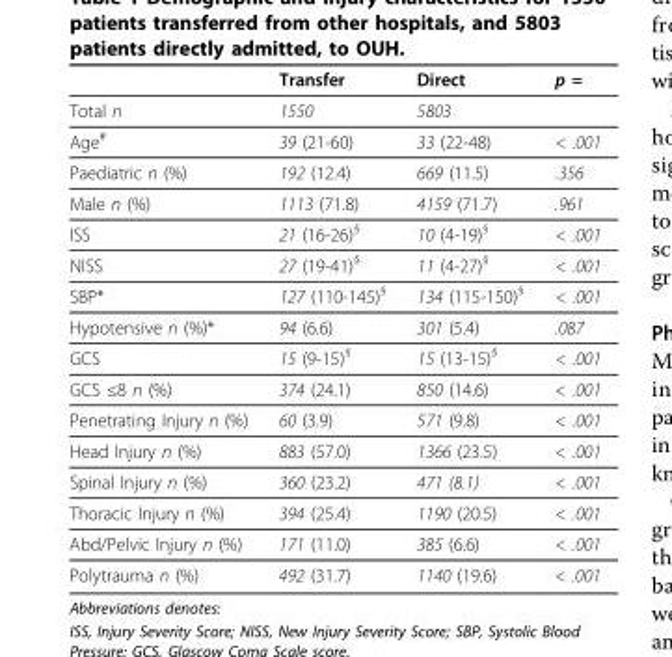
<table><thead><tr><td></td><td>Transfer</td><td>Direct</td><td>p =</td></tr></thead><tbody><tr><td>Total n</td><td>1550</td><td>5803</td><td></td></tr><tr><td>Age<sup>#</sup></td><td>39 (21-60)</td><td>33 (22-48)</td><td>&lt; .001</td></tr><tr><td>Paediatric n (%)</td><td>192 (12.4)</td><td>669 (11.5)</td><td>.356</td></tr><tr><td>Male n (%)</td><td>1113 (71.8)</td><td>4159 (71.7)</td><td>.961</td></tr><tr><td>ISS</td><td>21 (16-26)<sup>§</sup></td><td>10 (4-19)<sup>§</sup></td><td>&lt; .001</td></tr><tr><td>NISS</td><td>27 (19-41)<sup>§</sup></td><td>11 (4-27)<sup>§</sup></td><td>&lt; .001</td></tr><tr><td>SBP*</td><td>127 (110-145)<sup>§</sup></td><td>134 (115-150)<sup>§</sup></td><td>&lt; .001</td></tr><tr><td>Hypotensive n (%)*</td><td>94 (6.6)</td><td>301 (5.4)</td><td>.087</td></tr><tr><td>GCS</td><td>15 (9-15)<sup>§</sup></td><td>15 (13-15)<sup>§</sup></td><td>&lt; .001</td></tr><tr><td>GCS ≤8 n (%)</td><td>374 (24.1)</td><td>850 (14.6)</td><td>&lt; .001</td></tr><tr><td>Penetrating Injury n (%)</td><td>60 (3.9)</td><td>571 (9.8)</td><td>&lt; .001</td></tr><tr><td>Head Injury n (%)</td><td>883 (57.0)</td><td>1366 (23.5)</td><td>&lt; .001</td></tr><tr><td>Spinal Injury n (%)</td><td>360 (23.2)</td><td>471 (8.1)</td><td>&lt; .001</td></tr><tr><td>Thoracic Injury n (%)</td><td>394 (25.4)</td><td>1190 (20.5)</td><td>&lt; .001</td></tr><tr><td>Abd/Pelvic Injury n (%)</td><td>171 (11.0)</td><td>385 (6.6)</td><td>&lt; .001</td></tr><tr><td>Polytrauma n (%)</td><td>492 (31.7)</td><td>1140 (19.6)</td><td>&lt; .001</td></tr></tbody></table>